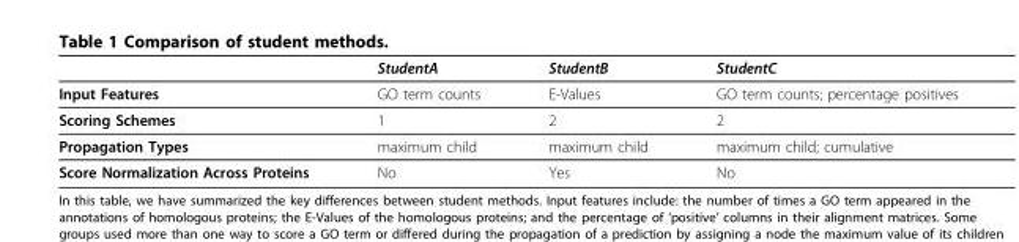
<table><thead><tr><td></td><td>StudentA</td><td>StudentB</td><td>StudentC</td></tr></thead><tbody><tr><td>Input Features</td><td>GO term counts</td><td>E-Values</td><td>GO term counts; percentage positives</td></tr><tr><td>Scoring Schemes</td><td>1</td><td>2</td><td>2</td></tr><tr><td>Propagation Types</td><td>maximum child</td><td>maximum child</td><td>maximum child; cumulative</td></tr><tr><td>Score Normalization Across Proteins</td><td>No</td><td>Yes</td><td>No</td></tr></tbody></table>